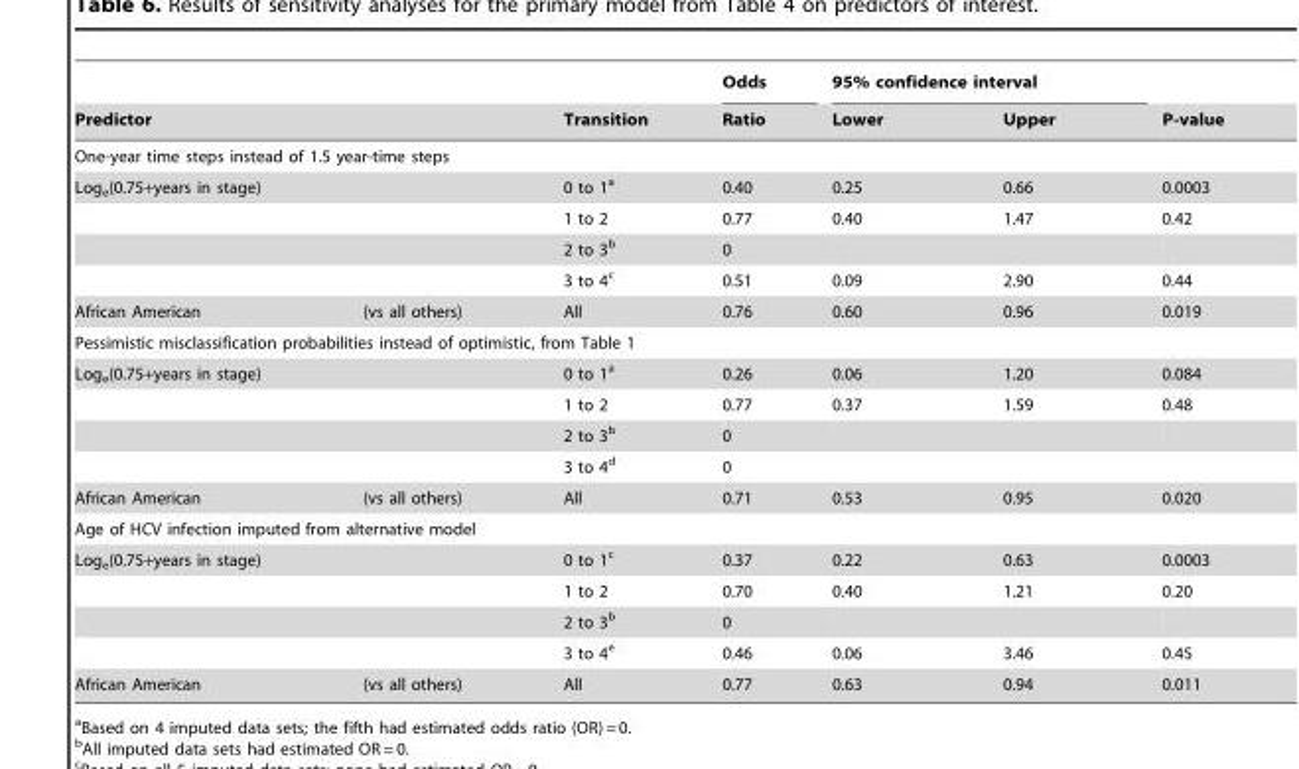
<table><thead><tr><td rowspan="2">Predictor</td><td rowspan="2">Transition</td><td rowspan="2">Odds Ratio</td><td colspan="2">95% confidence interval</td><td rowspan="2">P-value</td></tr><tr><td>Lower</td><td>Upper</td></tr></thead><tbody><tr><td colspan="6">One-year time steps instead of 1.5 year-time steps</td></tr><tr><td rowspan="4">Log<sub>e</sub>(0.75+years in stage)</td><td>0 to 1<sup>a</sup></td><td>0.40</td><td>0.25</td><td>0.66</td><td>0.0003</td></tr><tr><td>1 to 2</td><td>0.77</td><td>0.40</td><td>1.47</td><td>0.42</td></tr><tr><td>2 to 3<sup>b</sup></td><td>0</td><td></td><td></td><td></td></tr><tr><td>3 to 4<sup>c</sup></td><td>0.51</td><td>0.09</td><td>2.90</td><td>0.44</td></tr><tr><td>African American (vs all others)</td><td>All</td><td>0.76</td><td>0.60</td><td>0.96</td><td>0.019</td></tr><tr><td colspan="6">Pessimistic misclassification probabilities instead of optimistic, from Table 1</td></tr><tr><td rowspan="4">Log<sub>e</sub>(0.75+years in stage)</td><td>0 to 1<sup>a</sup></td><td>0.26</td><td>0.06</td><td>1.20</td><td>0.084</td></tr><tr><td>1 to 2</td><td>0.77</td><td>0.37</td><td>1.59</td><td>0.48</td></tr><tr><td>2 to 3<sup>b</sup></td><td>0</td><td></td><td></td><td></td></tr><tr><td>3 to 4<sup>d</sup></td><td>0</td><td></td><td></td><td></td></tr><tr><td>African American (vs all others)</td><td>All</td><td>0.71</td><td>0.53</td><td>0.95</td><td>0.020</td></tr><tr><td colspan="6">Age of HCV infection imputed from alternative model</td></tr><tr><td rowspan="4">Log<sub>e</sub>(0.75+years in stage)</td><td>0 to 1<sup>c</sup></td><td>0.37</td><td>0.22</td><td>0.63</td><td>0.0003</td></tr><tr><td>1 to 2</td><td>0.70</td><td>0.40</td><td>1.21</td><td>0.20</td></tr><tr><td>2 to 3<sup>b</sup></td><td>0</td><td></td><td></td><td></td></tr><tr><td>3 to 4<sup>e</sup></td><td>0.46</td><td>0.06</td><td>3.46</td><td>0.45</td></tr><tr><td>African American (vs all others)</td><td>All</td><td>0.77</td><td>0.63</td><td>0.94</td><td>0.011</td></tr></tbody></table>